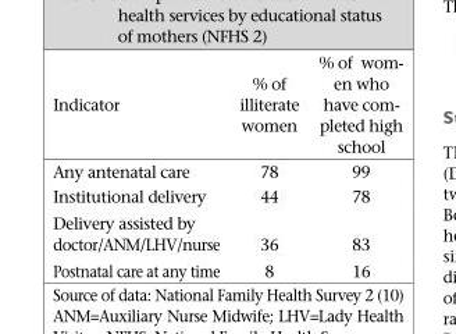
<table><thead><tr><td>Indicator</td><td>% of illiterate women</td><td>% of wom- en who have com- pleted high school</td></tr></thead><tbody><tr><td>Any antenatal care</td><td>78</td><td>99</td></tr><tr><td>Institutional delivery</td><td>44</td><td>78</td></tr><tr><td>Delivery assisted by doctor/ANM/LHV/nurse</td><td>36</td><td>83</td></tr><tr><td>Postnatal care at any time</td><td>8</td><td>16</td></tr></tbody></table>